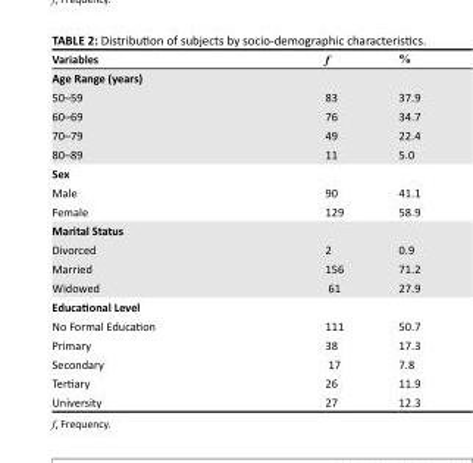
<table><thead><tr><td>Variables</td><td>f</td><td>%</td></tr></thead><tbody><tr><td colspan="3">Age Range (years)</td></tr><tr><td>50–59</td><td>83</td><td>37.9</td></tr><tr><td>60–69</td><td>76</td><td>34.7</td></tr><tr><td>70–79</td><td>49</td><td>22.4</td></tr><tr><td>80–89</td><td>11</td><td>5.0</td></tr><tr><td colspan="3">Sex</td></tr><tr><td>Male</td><td>90</td><td>41.1</td></tr><tr><td>Female</td><td>129</td><td>58.9</td></tr><tr><td colspan="3">Marital Status</td></tr><tr><td>Divorced</td><td>2</td><td>0.9</td></tr><tr><td>Married</td><td>156</td><td>71.2</td></tr><tr><td>Widowed</td><td>61</td><td>27.9</td></tr><tr><td colspan="3">Educational Level</td></tr><tr><td>No Formal Education</td><td>111</td><td>50.7</td></tr><tr><td>Primary</td><td>38</td><td>17.3</td></tr><tr><td>Secondary</td><td>17</td><td>7.8</td></tr><tr><td>Tertiary</td><td>26</td><td>11.9</td></tr><tr><td>University</td><td>27</td><td>12.3</td></tr></tbody></table>